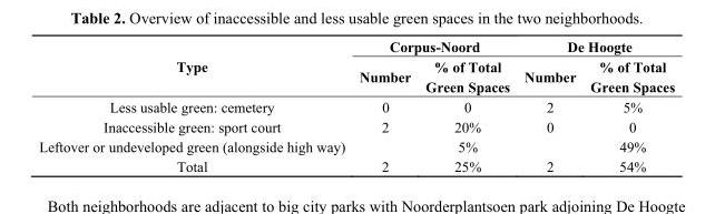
<table><thead><tr><td rowspan="2">Type</td><td colspan="2">Corpus-Noord</td><td colspan="2">De Hoogte</td></tr><tr><td>Number</td><td>% of Total Green Spaces</td><td>Number</td><td>% of Total Green Spaces</td></tr></thead><tbody><tr><td>Less usable green: cemetery</td><td>0</td><td>0</td><td>2</td><td>5%</td></tr><tr><td>Inaccessible green: sport court</td><td>2</td><td>20%</td><td>0</td><td>0</td></tr><tr><td>Leftover or undeveloped green (alongside high way)</td><td></td><td>5%</td><td></td><td>49%</td></tr><tr><td>Total</td><td>2</td><td>25%</td><td>2</td><td>54%</td></tr></tbody></table>